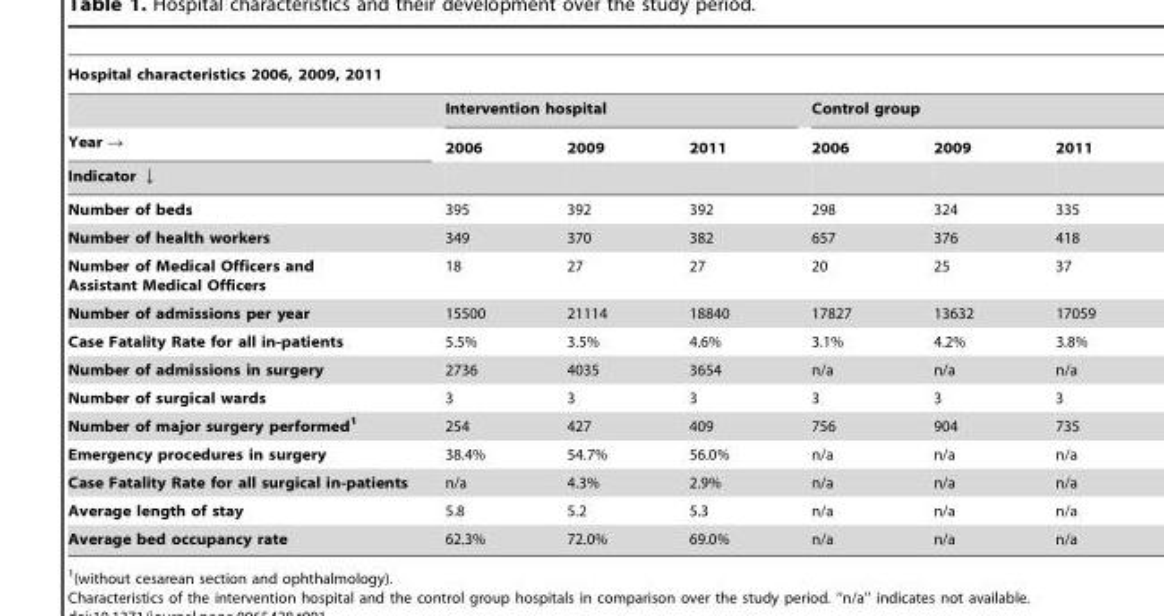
<table><thead><tr><td colspan="7">Hospital characteristics 2006, 2009, 2011</td></tr><tr><td rowspan="3">Year → Indicator ↓</td><td colspan="3">Intervention hospital</td><td colspan="3">Control group</td></tr><tr><td rowspan="2">2006</td><td rowspan="2">2009</td><td rowspan="2">2011</td><td rowspan="2">2006</td><td rowspan="2">2009</td><td rowspan="2">2011</td></tr><tr></tr></thead><tbody><tr><td>Number of beds</td><td>395</td><td>392</td><td>392</td><td>298</td><td>324</td><td>335</td></tr><tr><td>Number of health workers</td><td>349</td><td>370</td><td>382</td><td>657</td><td>376</td><td>418</td></tr><tr><td>Number of Medical Officers and Assistant Medical Officers</td><td>18</td><td>27</td><td>27</td><td>20</td><td>25</td><td>37</td></tr><tr><td>Number of admissions per year</td><td>15500</td><td>21114</td><td>18840</td><td>17827</td><td>13632</td><td>17059</td></tr><tr><td>Case Fatality Rate for all in-patients</td><td>5.5%</td><td>3.5%</td><td>4.6%</td><td>3.1%</td><td>4.2%</td><td>3.8%</td></tr><tr><td>Number of admissions in surgery</td><td>2736</td><td>4035</td><td>3654</td><td>n/a</td><td>n/a</td><td>n/a</td></tr><tr><td>Number of surgical wards</td><td>3</td><td>3</td><td>3</td><td>3</td><td>3</td><td>3</td></tr><tr><td>Number of major surgery performed1</td><td>254</td><td>427</td><td>409</td><td>756</td><td>904</td><td>735</td></tr><tr><td>Emergency procedures in surgery</td><td>38.4%</td><td>54.7%</td><td>56.0%</td><td>n/a</td><td>n/a</td><td>n/a</td></tr><tr><td>Case Fatality Rate for all surgical in-patients</td><td>n/a</td><td>4.3%</td><td>2.9%</td><td>n/a</td><td>n/a</td><td>n/a</td></tr><tr><td>Average length of stay</td><td>5.8</td><td>5.2</td><td>5.3</td><td>n/a</td><td>n/a</td><td>n/a</td></tr><tr><td>Average bed occupancy rate</td><td>62.3%</td><td>72.0%</td><td>69.0%</td><td>n/a</td><td>n/a</td><td>n/a</td></tr></tbody></table>